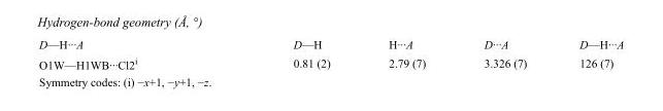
<table><tbody><tr><td>D—H···A</td><td>D—H</td><td>H···A</td><td>D···A</td><td>D—H···A</td></tr><tr><td>O1W—H1WB···Cl2<sup>i</sup></td><td>0.81 (2)</td><td>2.79 (7)</td><td>3.326 (7)</td><td>126 (7)</td></tr></tbody></table>